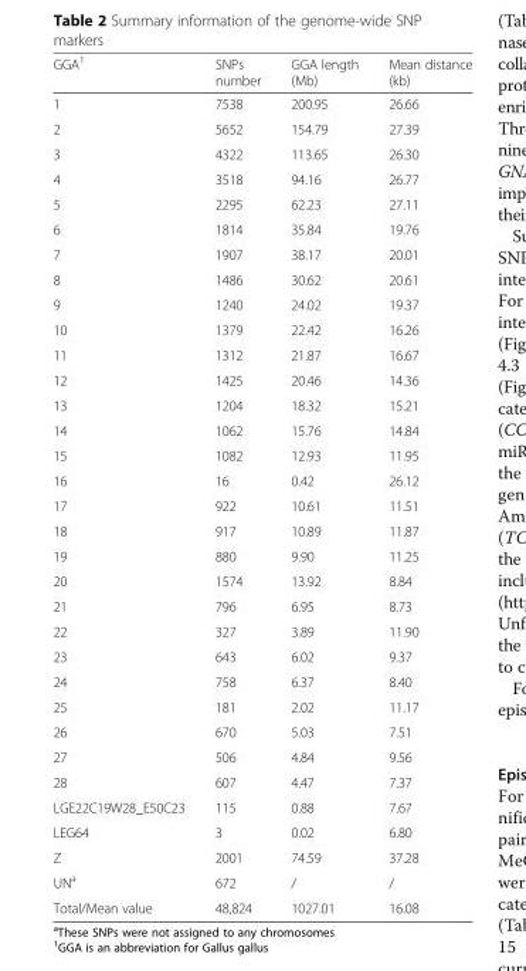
<table><thead><tr><td>GGA<sup>1</sup></td><td>SNPs number</td><td>GGA length (Mb)</td><td>Mean distance (kb)</td></tr></thead><tbody><tr><td>1</td><td>7538</td><td>200.95</td><td>26.66</td></tr><tr><td>2</td><td>5652</td><td>154.79</td><td>27.39</td></tr><tr><td>3</td><td>4322</td><td>113.65</td><td>26.30</td></tr><tr><td>4</td><td>3518</td><td>94.16</td><td>26.77</td></tr><tr><td>5</td><td>2295</td><td>62.23</td><td>27.11</td></tr><tr><td>6</td><td>1814</td><td>35.84</td><td>19.76</td></tr><tr><td>7</td><td>1907</td><td>38.17</td><td>20.01</td></tr><tr><td>8</td><td>1486</td><td>30.62</td><td>20.61</td></tr><tr><td>9</td><td>1240</td><td>24.02</td><td>19.37</td></tr><tr><td>10</td><td>1379</td><td>22.42</td><td>16.26</td></tr><tr><td>11</td><td>1312</td><td>21.87</td><td>16.67</td></tr><tr><td>12</td><td>1425</td><td>20.46</td><td>14.36</td></tr><tr><td>13</td><td>1204</td><td>18.32</td><td>15.21</td></tr><tr><td>14</td><td>1062</td><td>15.76</td><td>14.84</td></tr><tr><td>15</td><td>1082</td><td>12.93</td><td>11.95</td></tr><tr><td>16</td><td>16</td><td>0.42</td><td>26.12</td></tr><tr><td>17</td><td>922</td><td>10.61</td><td>11.51</td></tr><tr><td>18</td><td>917</td><td>10.89</td><td>11.87</td></tr><tr><td>19</td><td>880</td><td>9.90</td><td>11.25</td></tr><tr><td>20</td><td>1574</td><td>13.92</td><td>8.84</td></tr><tr><td>21</td><td>796</td><td>6.95</td><td>8.73</td></tr><tr><td>22</td><td>327</td><td>3.89</td><td>11.90</td></tr><tr><td>23</td><td>643</td><td>6.02</td><td>9.37</td></tr><tr><td>24</td><td>758</td><td>6.37</td><td>8.40</td></tr><tr><td>25</td><td>181</td><td>2.02</td><td>11.17</td></tr><tr><td>26</td><td>670</td><td>5.03</td><td>7.51</td></tr><tr><td>27</td><td>506</td><td>4.84</td><td>9.56</td></tr><tr><td>28</td><td>607</td><td>4.47</td><td>7.37</td></tr><tr><td>LGE22C19W28_E50C23</td><td>115</td><td>0.88</td><td>7.67</td></tr><tr><td>LEG64</td><td>3</td><td>0.02</td><td>6.80</td></tr><tr><td>Z</td><td>2001</td><td>74.59</td><td>37.28</td></tr><tr><td>UN<sup>a</sup></td><td>672</td><td>/</td><td>/</td></tr><tr><td>Total/Mean value</td><td>48,824</td><td>1027.01</td><td>16.08</td></tr></tbody></table>